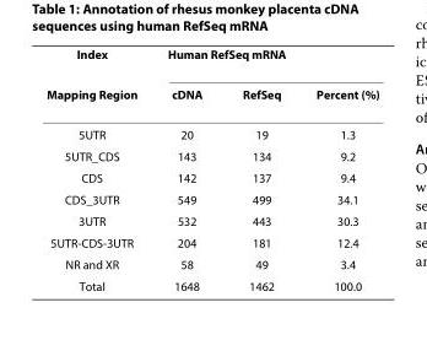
<table><thead><tr><td rowspan="2">Index Mapping Region</td><td colspan="2">Human RefSeq mRNA</td><td rowspan="2">Percent (%)</td></tr><tr><td>cDNA</td><td>RefSeq</td></tr></thead><tbody><tr><td>5UTR</td><td>20</td><td>19</td><td>1.3</td></tr><tr><td>5UTR_CDS</td><td>143</td><td>134</td><td>9.2</td></tr><tr><td>CDS</td><td>142</td><td>137</td><td>9.4</td></tr><tr><td>CDS_3UTR</td><td>549</td><td>499</td><td>34.1</td></tr><tr><td>3UTR</td><td>532</td><td>443</td><td>30.3</td></tr><tr><td>5UTR-CDS-3UTR</td><td>204</td><td>181</td><td>12.4</td></tr><tr><td>NR and XR</td><td>58</td><td>49</td><td>3.4</td></tr><tr><td>Total</td><td>1648</td><td>1462</td><td>100.0</td></tr></tbody></table>